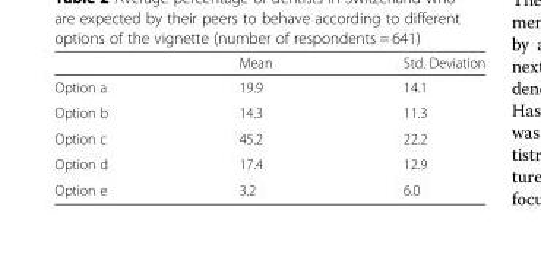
<table><thead><tr><td></td><td>Mean</td><td>Std. Deviation</td></tr></thead><tbody><tr><td>Option a</td><td>19.9</td><td>14.1</td></tr><tr><td>Option b</td><td>14.3</td><td>11.3</td></tr><tr><td>Option c</td><td>45.2</td><td>22.2</td></tr><tr><td>Option d</td><td>17.4</td><td>12.9</td></tr><tr><td>Option e</td><td>3.2</td><td>6.0</td></tr></tbody></table>